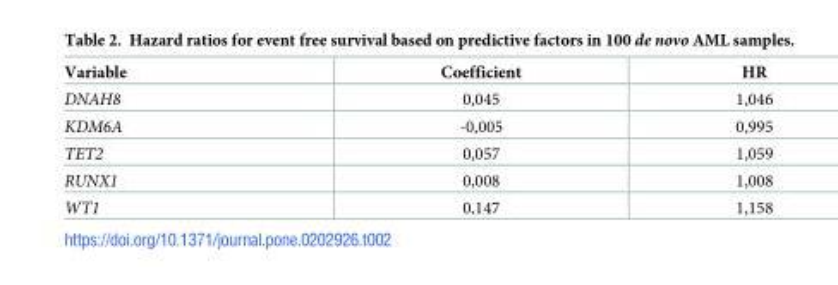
<table><thead><tr><td>Variable</td><td>Coefficient</td><td>HR</td></tr></thead><tbody><tr><td>DNAH8</td><td>0,045</td><td>1,046</td></tr><tr><td>KDM6A</td><td>-0,005</td><td>0,995</td></tr><tr><td>TET2</td><td>0,057</td><td>1,059</td></tr><tr><td>RUNX1</td><td>0,008</td><td>1,008</td></tr><tr><td>WT1</td><td>0,147</td><td>1,158</td></tr></tbody></table>